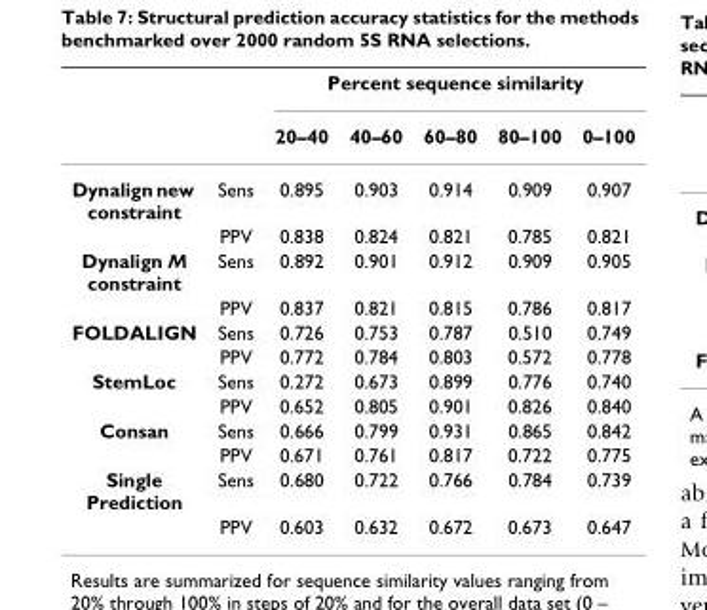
<table><thead><tr><td rowspan="2"></td><td rowspan="2"></td><td colspan="5">Percent sequence similarity</td></tr><tr><td>20–40</td><td>40–60</td><td>60–80</td><td>80–100</td><td>0–100</td></tr></thead><tbody><tr><td rowspan="2">Dynalign new constraint</td><td>Sens</td><td>0.895</td><td>0.903</td><td>0.914</td><td>0.909</td><td>0.907</td></tr><tr><td>PPV</td><td>0.838</td><td>0.824</td><td>0.821</td><td>0.785</td><td>0.821</td></tr><tr><td rowspan="2">Dynalign M constraint</td><td>Sens</td><td>0.892</td><td>0.901</td><td>0.912</td><td>0.909</td><td>0.905</td></tr><tr><td>PPV</td><td>0.837</td><td>0.821</td><td>0.815</td><td>0.786</td><td>0.817</td></tr><tr><td rowspan="2">FOLDALIGN</td><td>Sens</td><td>0.726</td><td>0.753</td><td>0.787</td><td>0.510</td><td>0.749</td></tr><tr><td>PPV</td><td>0.772</td><td>0.784</td><td>0.803</td><td>0.572</td><td>0.778</td></tr><tr><td rowspan="2">StemLoc</td><td>Sens</td><td>0.272</td><td>0.673</td><td>0.899</td><td>0.776</td><td>0.740</td></tr><tr><td>PPV</td><td>0.652</td><td>0.805</td><td>0.901</td><td>0.826</td><td>0.840</td></tr><tr><td rowspan="2">Consan</td><td>Sens</td><td>0.666</td><td>0.799</td><td>0.931</td><td>0.865</td><td>0.842</td></tr><tr><td>PPV</td><td>0.671</td><td>0.761</td><td>0.817</td><td>0.722</td><td>0.775</td></tr><tr><td rowspan="2">Single Prediction</td><td>Sens</td><td>0.680</td><td>0.722</td><td>0.766</td><td>0.784</td><td>0.739</td></tr><tr><td>PPV</td><td>0.603</td><td>0.632</td><td>0.672</td><td>0.673</td><td>0.647</td></tr></tbody></table>